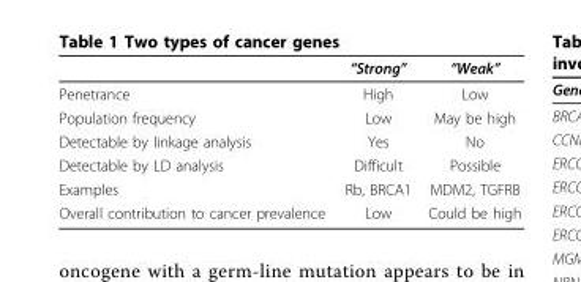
<table><thead><tr><td></td><td>“Strong”</td><td>“Weak”</td></tr></thead><tbody><tr><td>Penetrance</td><td>High</td><td>Low</td></tr><tr><td>Population frequency</td><td>Low</td><td>May be high</td></tr><tr><td>Detectable by linkage analysis</td><td>Yes</td><td>No</td></tr><tr><td>Detectable by LD analysis</td><td>Difficult</td><td>Possible</td></tr><tr><td>Examples</td><td>Rb, BRCA1</td><td>MDM2, TGFRB</td></tr><tr><td>Overall contribution to cancer prevalence</td><td>Low</td><td>Could be high</td></tr></tbody></table>